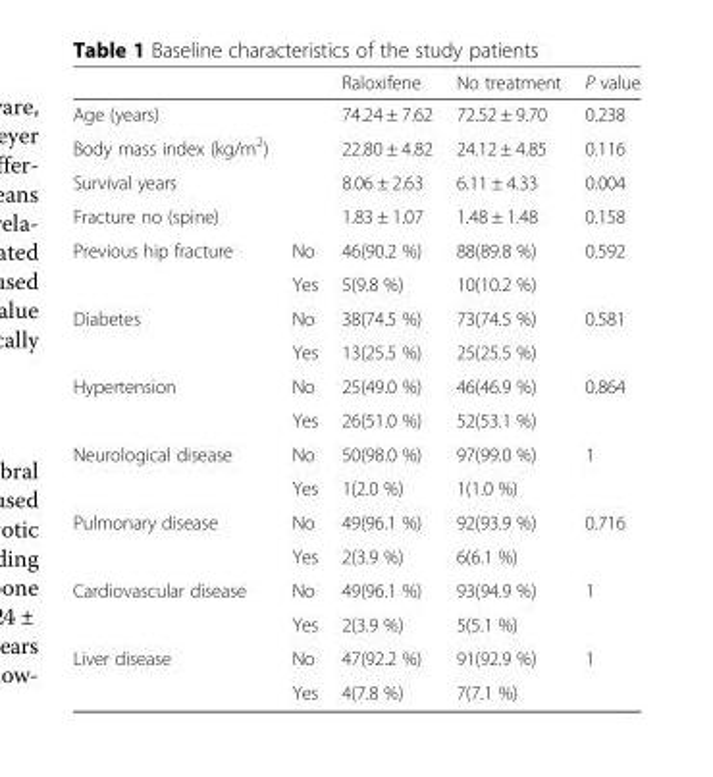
<table><thead><tr><td></td><td></td><td>Raloxifene</td><td>No treatment</td><td>P value</td></tr></thead><tbody><tr><td>Age (years)</td><td></td><td>74.24 ± 7.62</td><td>72.52 ± 9.70</td><td>0.238</td></tr><tr><td>Body mass index (kg/m<sup>2</sup>)</td><td></td><td>22.80 ± 4.82</td><td>24.12 ± 4.85</td><td>0.116</td></tr><tr><td>Survival years</td><td></td><td>8.06 ± 2.63</td><td>6.11 ± 4.33</td><td>0.004</td></tr><tr><td>Fracture no (spine)</td><td></td><td>1.83 ± 1.07</td><td>1.48 ± 1.48</td><td>0.158</td></tr><tr><td rowspan="2">Previous hip fracture</td><td>No</td><td>46(90.2 %)</td><td>88(89.8 %)</td><td>0.592</td></tr><tr><td>Yes</td><td>5(9.8 %)</td><td>10(10.2 %)</td><td></td></tr><tr><td rowspan="2">Diabetes</td><td>No</td><td>38(74.5 %)</td><td>73(74.5 %)</td><td>0.581</td></tr><tr><td>Yes</td><td>13(25.5 %)</td><td>25(25.5 %)</td><td></td></tr><tr><td rowspan="2">Hypertension</td><td>No</td><td>25(49.0 %)</td><td>46(46.9 %)</td><td>0.864</td></tr><tr><td>Yes</td><td>26(51.0 %)</td><td>52(53.1 %)</td><td></td></tr><tr><td rowspan="2">Neurological disease</td><td>No</td><td>50(98.0 %)</td><td>97(99.0 %)</td><td>1</td></tr><tr><td>Yes</td><td>1(2.0 %)</td><td>1(1.0 %)</td><td></td></tr><tr><td rowspan="2">Pulmonary disease</td><td>No</td><td>49(96.1 %)</td><td>92(93.9 %)</td><td>0.716</td></tr><tr><td>Yes</td><td>2(3.9 %)</td><td>6(6.1 %)</td><td></td></tr><tr><td rowspan="2">Cardiovascular disease</td><td>No</td><td>49(96.1 %)</td><td>93(94.9 %)</td><td>1</td></tr><tr><td>Yes</td><td>2(3.9 %)</td><td>5(5.1 %)</td><td></td></tr><tr><td rowspan="2">Liver disease</td><td>No</td><td>47(92.2 %)</td><td>91(92.9 %)</td><td>1</td></tr><tr><td>Yes</td><td>4(7.8 %)</td><td>7(7.1 %)</td><td></td></tr></tbody></table>